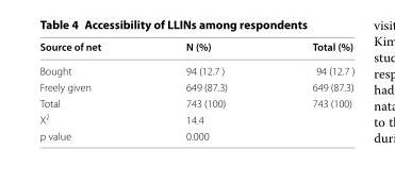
<table><thead><tr><td>Source of net</td><td>N (%)</td><td>Total (%)</td></tr></thead><tbody><tr><td>Bought</td><td>94 (12.7 )</td><td>94 (12.7 )</td></tr><tr><td>Freely given</td><td>649 (87.3)</td><td>649 (87.3)</td></tr><tr><td>Total</td><td>743 (100)</td><td>743 (100)</td></tr><tr><td>X<sup>2</sup></td><td>14.4</td><td></td></tr><tr><td>p value</td><td>0.000</td><td></td></tr></tbody></table>